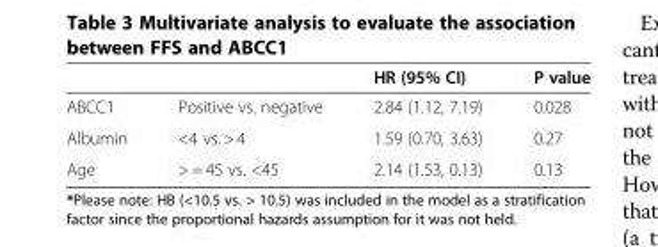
<table><thead><tr><td></td><td></td><td>HR (95% CI)</td><td>P value</td></tr></thead><tbody><tr><td>ABCC1</td><td>Positive vs. negative</td><td>2.84 (1.12, 7.19)</td><td>0.028</td></tr><tr><td>Albumin</td><td>&lt;4 vs. &gt; 4</td><td>1.59 (0.70, 3.63)</td><td>0.27</td></tr><tr><td>Age</td><td>&gt; = 45 vs. &lt;45</td><td>2.14 (1.53, 0.13)</td><td>0.13</td></tr></tbody></table>